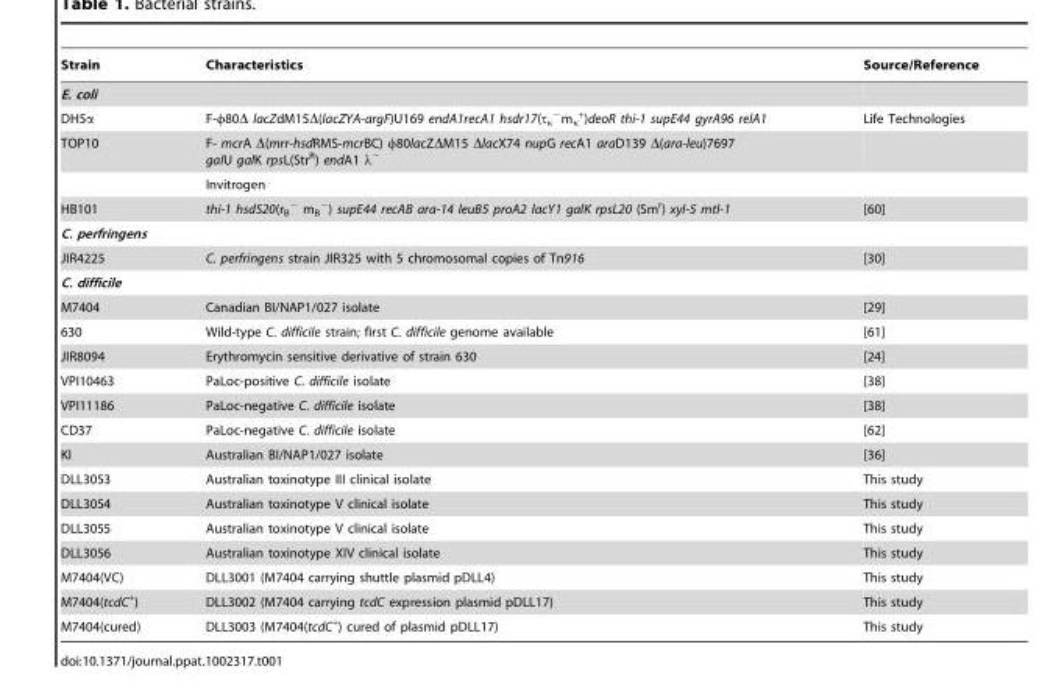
<table><thead><tr><td>Strain</td><td>Characteristics</td><td>Source/Reference</td></tr></thead><tbody><tr><td colspan="3">E. coli</td></tr><tr><td>DH5α</td><td>F-φ80Δ lacZdM15Δ(lacZYA-argF)U169 endA1recA1 hsdr17(τ<sub>κ</sub> <sup>−</sup>m<sub>κ</sub> <sup>+</sup>)deoR thi-1 supE44 gyrA96 relA1</td><td>Life Technologies</td></tr><tr><td rowspan="2">TOP10</td><td>F- mcrA Δ(mrr-hsdRMS-mcrBC) φ80lacZΔM15 ΔlacX74 nupG recA1 araD139 Δ(ara-leu)7697 galU galK rpsL(Str<sup>R</sup>) endA1 λ<sup>−</sup></td><td></td></tr><tr><td>Invitrogen</td><td></td></tr><tr><td>HB101</td><td>thi-1 hsdS20(r<sub>B</sub> <sup>−</sup> m<sub>B</sub> <sup>−</sup>) supE44 recAB ara-14 leuB5 proA2 lacY1 galK rpsL20 (Sm<sup>r</sup>) xyl-5 mtl-1</td><td>[60]</td></tr><tr><td colspan="3">C. perfringens</td></tr><tr><td>JIR4225</td><td>C. perfringens strain JIR325 with 5 chromosomal copies of Tn916</td><td>[30]</td></tr><tr><td colspan="3">C. difficile</td></tr><tr><td>M7404</td><td>Canadian BI/NAP1/027 isolate</td><td>[29]</td></tr><tr><td>630</td><td>Wild-type C. difficile strain; first C. difficile genome available</td><td>[61]</td></tr><tr><td>JIR8094</td><td>Erythromycin sensitive derivative of strain 630</td><td>[24]</td></tr><tr><td>VPI10463</td><td>PaLoc-positive C. difficile isolate</td><td>[38]</td></tr><tr><td>VPI11186</td><td>PaLoc-negative C. difficile isolate</td><td>[38]</td></tr><tr><td>CD37</td><td>PaLoc-negative C. difficile isolate</td><td>[62]</td></tr><tr><td>KI</td><td>Australian BI/NAP1/027 isolate</td><td>[36]</td></tr><tr><td>DLL3053</td><td>Australian toxinotype III clinical isolate</td><td>This study</td></tr><tr><td>DLL3054</td><td>Australian toxinotype V clinical isolate</td><td>This study</td></tr><tr><td>DLL3055</td><td>Australian toxinotype V clinical isolate</td><td>This study</td></tr><tr><td>DLL3056</td><td>Australian toxinotype XIV clinical isolate</td><td>This study</td></tr><tr><td>M7404(VC)</td><td>DLL3001 (M7404 carrying shuttle plasmid pDLL4)</td><td>This study</td></tr><tr><td>M7404(tcdC<sup>+</sup>)</td><td>DLL3002 (M7404 carrying tcdC expression plasmid pDLL17)</td><td>This study</td></tr><tr><td>M7404(cured)</td><td>DLL3003 (M7404(tcdC<sup>+</sup>) cured of plasmid pDLL17)</td><td>This study</td></tr></tbody></table>